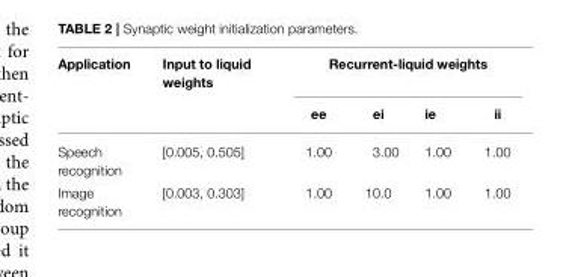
<table><thead><tr><td rowspan="2">Application</td><td rowspan="2">Input to liquid weights</td><td colspan="4">Recurrent-liquid weights</td></tr><tr><td>ee</td><td>ei</td><td>ie</td><td>ii</td></tr></thead><tbody><tr><td>Speech recognition</td><td>[0.005, 0.505]</td><td>1.00</td><td>3.00</td><td>1.00</td><td>1.00</td></tr><tr><td>Image recognition</td><td>[0.003, 0.303]</td><td>1.00</td><td>10.0</td><td>1.00</td><td>1.00</td></tr></tbody></table>